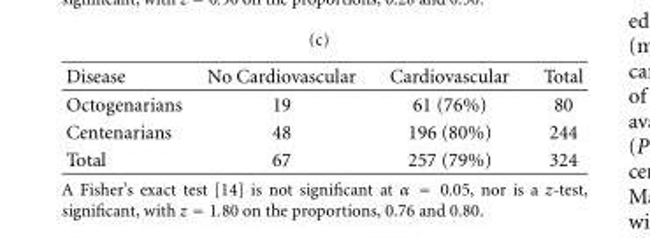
<table><thead><tr><td>Disease</td><td>No Cardiovascular</td><td>Cardiovascular</td><td>Total</td></tr></thead><tbody><tr><td>Octogenarians</td><td>19</td><td>61 (76%)</td><td>80</td></tr><tr><td>Centenarians</td><td>48</td><td>196 (80%)</td><td>244</td></tr><tr><td>Total</td><td>67</td><td>257 (79%)</td><td>324</td></tr></tbody></table>